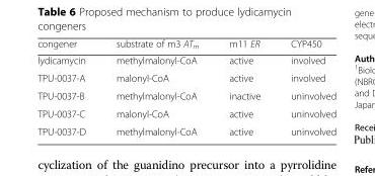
<table><thead><tr><td>congener</td><td>substrate of m3 AT<sub>m</sub></td><td>m11 ER</td><td>CYP450</td></tr></thead><tbody><tr><td>lydicamycin</td><td>methylmalonyl-CoA</td><td>active</td><td>involved</td></tr><tr><td>TPU-0037-A</td><td>malonyl-CoA</td><td>active</td><td>involved</td></tr><tr><td>TPU-0037-B</td><td>methylmalonyl-CoA</td><td>inactive</td><td>uninvolved</td></tr><tr><td>TPU-0037-C</td><td>malonyl-CoA</td><td>active</td><td>uninvolved</td></tr><tr><td>TPU-0037-D</td><td>methylmalonyl-CoA</td><td>active</td><td>uninvolved</td></tr></tbody></table>